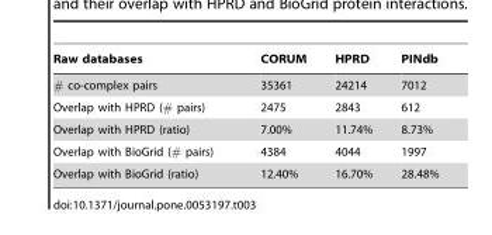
<table><thead><tr><td>Raw databases</td><td>CORUM</td><td>HPRD</td><td>PINdb</td></tr></thead><tbody><tr><td># co-complex pairs</td><td>35361</td><td>24214</td><td>7012</td></tr><tr><td>Overlap with HPRD (# pairs)</td><td>2475</td><td>2843</td><td>612</td></tr><tr><td>Overlap with HPRD (ratio)</td><td>7.00%</td><td>11.74%</td><td>8.73%</td></tr><tr><td>Overlap with BioGrid (# pairs)</td><td>4384</td><td>4044</td><td>1997</td></tr><tr><td>Overlap with BioGrid (ratio)</td><td>12.40%</td><td>16.70%</td><td>28.48%</td></tr></tbody></table>